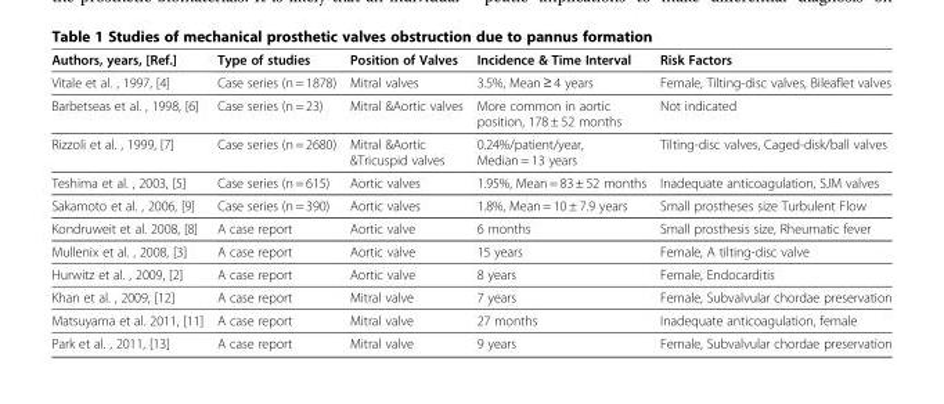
<table><thead><tr><td>Authors, years, [Ref.]</td><td>Type of studies</td><td>Position of Valves</td><td>Incidence &amp; Time Interval</td><td>Risk Factors</td></tr></thead><tbody><tr><td>Vitale et al. , 1997, [4]</td><td>Case series (n = 1878)</td><td>Mitral valves</td><td>3.5%, Mean ≥ 4 years</td><td>Female, Tilting-disc valves, Bileaflet valves</td></tr><tr><td>Barbetseas et al. , 1998, [6]</td><td>Case series (n = 23)</td><td>Mitral &amp;Aortic valves</td><td>More common in aortic position, 178 ± 52 months</td><td>Not indicated</td></tr><tr><td>Rizzoli et al. , 1999, [7]</td><td>Case series (n = 2680)</td><td>Mitral &amp;Aortic &amp;Tricuspid valves</td><td>0.24%/patient/year, Median = 13 years</td><td>Tilting-disc valves, Caged-disk/ball valves</td></tr><tr><td>Teshima et al. , 2003, [5]</td><td>Case series (n = 615)</td><td>Aortic valves</td><td>1.95%, Mean = 83 ± 52 months</td><td>Inadequate anticoagulation, SJM valves</td></tr><tr><td>Sakamoto et al. , 2006, [9]</td><td>Case series (n = 390)</td><td>Aortic valves</td><td>1.8%, Mean = 10 ± 7.9 years</td><td>Small prostheses size Turbulent Flow</td></tr><tr><td>Kondruweit et al. 2008, [8]</td><td>A case report</td><td>Aortic valve</td><td>6 months</td><td>Small prosthesis size, Rheumatic fever</td></tr><tr><td>Mullenix et al. , 2008, [3]</td><td>A case report</td><td>Aortic valve</td><td>15 years</td><td>Female, A tilting-disc valve</td></tr><tr><td>Hurwitz et al. , 2009, [2]</td><td>A case report</td><td>Aortic valve</td><td>8 years</td><td>Female, Endocarditis</td></tr><tr><td>Khan et al. , 2009, [12]</td><td>A case report</td><td>Mitral valve</td><td>7 years</td><td>Female, Subvalvular chordae preservation</td></tr><tr><td>Matsuyama et al. 2011, [11]</td><td>A case report</td><td>Mitral valve</td><td>27 months</td><td>Inadequate anticoagulation, female</td></tr><tr><td>Park et al. , 2011, [13]</td><td>A case report</td><td>Mitral valve</td><td>9 years</td><td>Female, Subvalvular chordae preservation</td></tr></tbody></table>